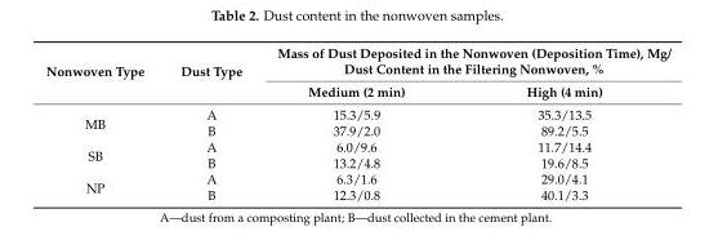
<table><thead><tr><td rowspan="2">Nonwoven Type</td><td rowspan="2">Dust Type</td><td colspan="2">Mass of Dust Deposited in the Nonwoven (Deposition Time), Mg/ Dust Content in the Filtering Nonwoven, %</td></tr><tr><td>Medium (2 min)</td><td>High (4 min)</td></tr></thead><tbody><tr><td rowspan="2">MB</td><td>A</td><td>15.3/5.9</td><td>35.3/13.5</td></tr><tr><td>B</td><td>37.9/2.0</td><td>89.2/5.5</td></tr><tr><td rowspan="2">SB</td><td>A</td><td>6.0/9.6</td><td>11.7/14.4</td></tr><tr><td>B</td><td>13.2/4.8</td><td>19.6/8.5</td></tr><tr><td rowspan="2">NP</td><td>A</td><td>6.3/1.6</td><td>29.0/4.1</td></tr><tr><td>B</td><td>12.3/0.8</td><td>40.1/3.3</td></tr></tbody></table>